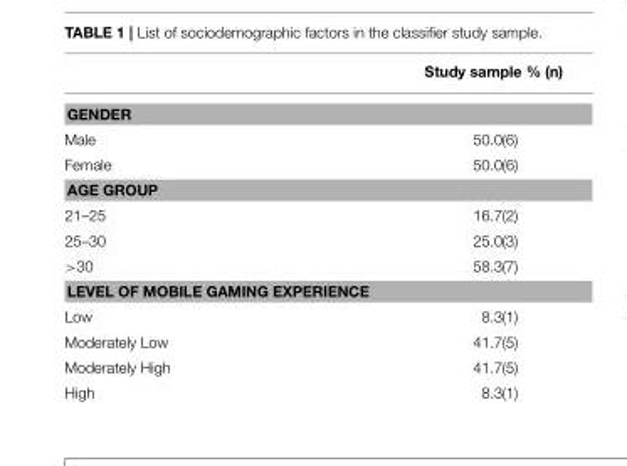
<table><thead><tr><td></td><td>Study sample % (n)</td></tr></thead><tbody><tr><td colspan="2">GENDER</td></tr><tr><td>Male</td><td>50.0(6)</td></tr><tr><td>Female</td><td>50.0(6)</td></tr><tr><td colspan="2">AGE GROUP</td></tr><tr><td>21–25</td><td>16.7(2)</td></tr><tr><td>25–30</td><td>25.0(3)</td></tr><tr><td>&gt;30</td><td>58.3(7)</td></tr><tr><td colspan="2">LEVEL OF MOBILE GAMING EXPERIENCE</td></tr><tr><td>Low</td><td>8.3(1)</td></tr><tr><td>Moderately Low</td><td>41.7(5)</td></tr><tr><td>Moderately High</td><td>41.7(5)</td></tr><tr><td>High</td><td>8.3(1)</td></tr></tbody></table>